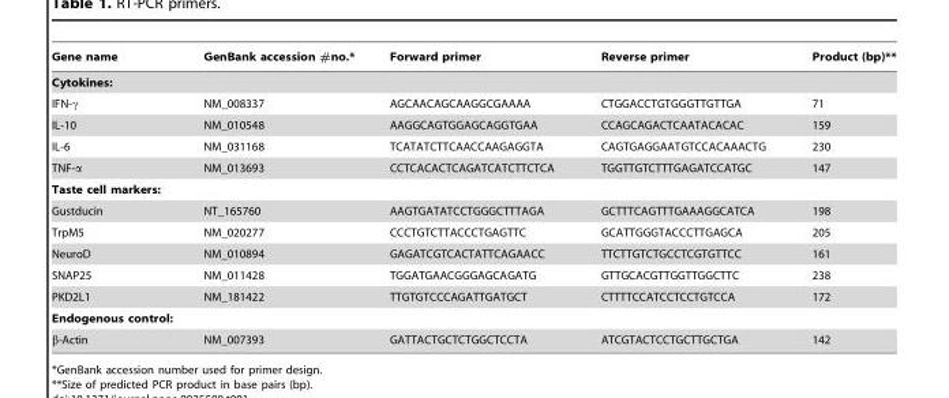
<table><thead><tr><td>Gene name</td><td>GenBank accession #no.*</td><td>Forward primer</td><td>Reverse primer</td><td>Product (bp)**</td></tr></thead><tbody><tr><td colspan="5">Cytokines:</td></tr><tr><td>IFN-γ</td><td>NM_008337</td><td>AGCAACAGCAAGGCGAAAA</td><td>CTGGACCTGTGGGTTGTTGA</td><td>71</td></tr><tr><td>IL-10</td><td>NM_010548</td><td>AAGGCAGTGGAGCAGGTGAA</td><td>CCAGCAGACTCAATACACAC</td><td>159</td></tr><tr><td>IL-6</td><td>NM_031168</td><td>TCATATCTTCAACCAAGAGGTA</td><td>CAGTGAGGAATGTCCACAAACTG</td><td>230</td></tr><tr><td>TNF-α</td><td>NM_013693</td><td>CCTCACACTCAGATCATCTTCTCA</td><td>TGGTTGTCTTTGAGATCCATGC</td><td>147</td></tr><tr><td colspan="5">Taste cell markers:</td></tr><tr><td>Gustducin</td><td>NT_165760</td><td>AAGTGATATCCTGGGCTTTAGA</td><td>GCTTTCAGTTTGAAAGGCATCA</td><td>198</td></tr><tr><td>TrpM5</td><td>NM_020277</td><td>CCCTGTCTTACCCTGAGTTC</td><td>GCATTGGGTACCCTTGAGCA</td><td>205</td></tr><tr><td>NeuroD</td><td>NM_010894</td><td>GAGATCGTCACTATTCAGAACC</td><td>TTCTTGTCTGCCTCGTGTTCC</td><td>161</td></tr><tr><td>SNAP25</td><td>NM_011428</td><td>TGGATGAACGGGAGCAGATG</td><td>GTTGCACGTTGGTTGGCTTC</td><td>238</td></tr><tr><td>PKD2L1</td><td>NM_181422</td><td>TTGTGTCCCAGATTGATGCT</td><td>CTTTTCCATCCTCCTGTCCA</td><td>172</td></tr><tr><td colspan="5">Endogenous control:</td></tr><tr><td>β-Actin</td><td>NM_007393</td><td>GATTACTGCTCTGGCTCCTA</td><td>ATCGTACTCCTGCTTGCTGA</td><td>142</td></tr></tbody></table>